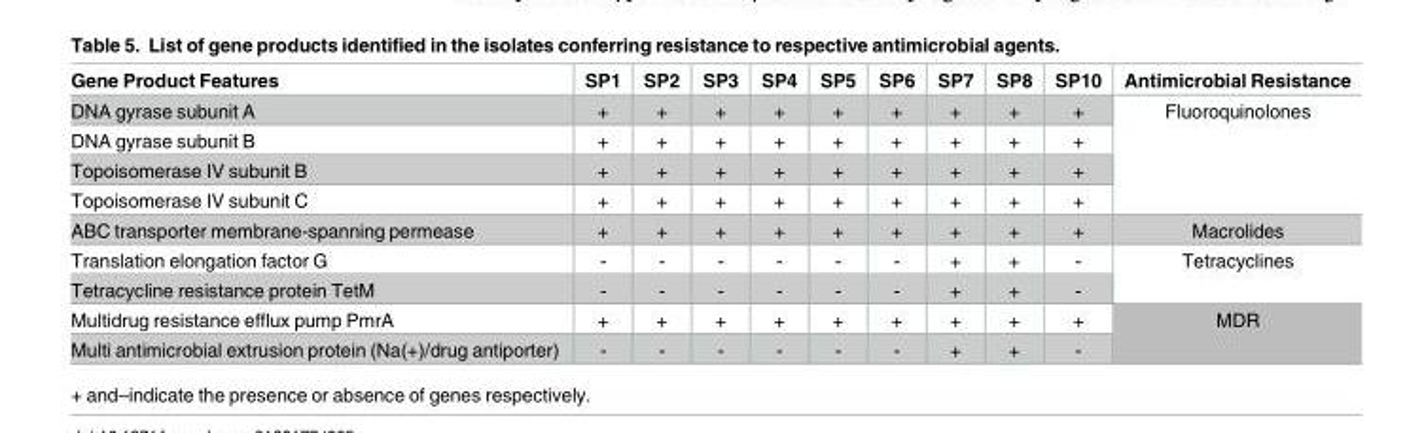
<table><thead><tr><td>Gene Product Features</td><td>SP1</td><td>SP2</td><td>SP3</td><td>SP4</td><td>SP5</td><td>SP6</td><td>SP7</td><td>SP8</td><td>SP10</td><td>Antimicrobial Resistance</td></tr></thead><tbody><tr><td>DNA gyrase subunit A</td><td>+</td><td>+</td><td>+</td><td>+</td><td>+</td><td>+</td><td>+</td><td>+</td><td>+</td><td rowspan="4">Fluoroquinolones</td></tr><tr><td>DNA gyrase subunit B</td><td>+</td><td>+</td><td>+</td><td>+</td><td>+</td><td>+</td><td>+</td><td>+</td><td>+</td></tr><tr><td>Topoisomerase IV subunit B</td><td>+</td><td>+</td><td>+</td><td>+</td><td>+</td><td>+</td><td>+</td><td>+</td><td>+</td></tr><tr><td>Topoisomerase IV subunit C</td><td>+</td><td>+</td><td>+</td><td>+</td><td>+</td><td>+</td><td>+</td><td>+</td><td>+</td></tr><tr><td>ABC transporter membrane-spanning permease</td><td>+</td><td>+</td><td>+</td><td>+</td><td>+</td><td>+</td><td>+</td><td>+</td><td>+</td><td>Macrolides</td></tr><tr><td>Translation elongation factor G</td><td>-</td><td>-</td><td>-</td><td>-</td><td>-</td><td>-</td><td>+</td><td>+</td><td>-</td><td rowspan="2">Tetracyclines</td></tr><tr><td>Tetracycline resistance protein TetM</td><td>-</td><td>-</td><td>-</td><td>-</td><td>-</td><td>-</td><td>+</td><td>+</td><td>-</td></tr><tr><td>Multidrug resistance efflux pump PmrA</td><td>+</td><td>+</td><td>+</td><td>+</td><td>+</td><td>+</td><td>+</td><td>+</td><td>+</td><td rowspan="2">MDR</td></tr><tr><td>Multi antimicrobial extrusion protein (Na(+)/drug antiporter)</td><td>-</td><td>-</td><td>-</td><td>-</td><td>-</td><td>-</td><td>+</td><td>+</td><td>-</td></tr></tbody></table>